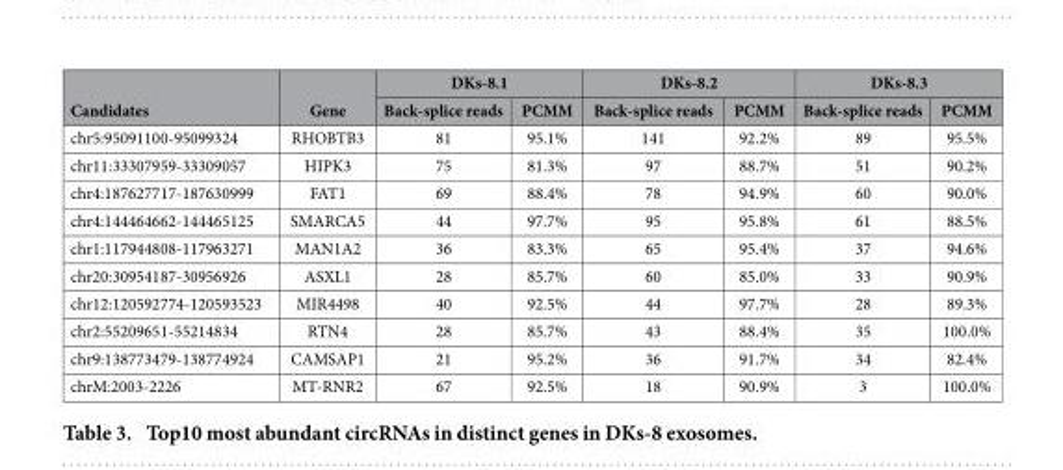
<table><thead><tr><td rowspan="2">Candidates</td><td rowspan="2">Gene</td><td colspan="2">DKs-8.1</td><td colspan="2">DKs-8.2</td><td colspan="2">DKs-8.3</td></tr><tr><td>Back-splice reads</td><td>PCMM</td><td>Back-splice reads</td><td>PCMM</td><td>Back-splice reads</td><td>PCMM</td></tr></thead><tbody><tr><td>chr5:95091100-95099324</td><td>RHOBTB3</td><td>81</td><td>95.1%</td><td>141</td><td>92.2%</td><td>89</td><td>95.5%</td></tr><tr><td>chr11:33307959-33309057</td><td>HIPK3</td><td>75</td><td>81.3%</td><td>97</td><td>88.7%</td><td>51</td><td>90.2%</td></tr><tr><td>chr4:187627717-187630999</td><td>FAT1</td><td>69</td><td>88.4%</td><td>78</td><td>94.9%</td><td>60</td><td>90.0%</td></tr><tr><td>chr4:144464662-144465125</td><td>SMARCA5</td><td>44</td><td>97.7%</td><td>95</td><td>95.8%</td><td>61</td><td>88.5%</td></tr><tr><td>chr1:117944808-117963271</td><td>MAN1A2</td><td>36</td><td>83.3%</td><td>65</td><td>95.4%</td><td>37</td><td>94.6%</td></tr><tr><td>chr20:30954187-30956926</td><td>ASXL1</td><td>28</td><td>85.7%</td><td>60</td><td>85.0%</td><td>33</td><td>90.9%</td></tr><tr><td>chr12:120592774-120593523</td><td>MIR4498</td><td>40</td><td>92.5%</td><td>44</td><td>97.7%</td><td>28</td><td>89.3%</td></tr><tr><td>chr2:55209651-55214834</td><td>RTN4</td><td>28</td><td>85.7%</td><td>43</td><td>88.4%</td><td>35</td><td>100.0%</td></tr><tr><td>chr9:138773479-138774924</td><td>CAMSAP1</td><td>21</td><td>95.2%</td><td>36</td><td>91.7%</td><td>34</td><td>82.4%</td></tr><tr><td>chrM:2003-2226</td><td>MT-RNR2</td><td>67</td><td>92.5%</td><td>18</td><td>90.9%</td><td>3</td><td>100.0%</td></tr></tbody></table>